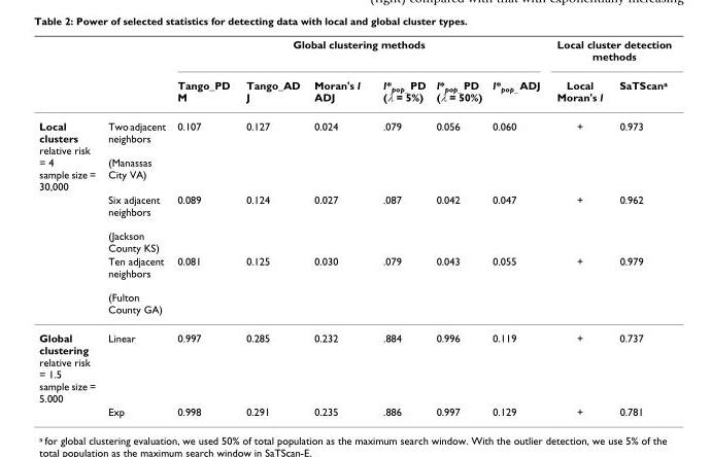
<table><thead><tr><td rowspan="2"></td><td rowspan="2"></td><td colspan="6">Global clustering methods</td><td colspan="2">Local cluster detection methods</td></tr><tr><td>Tango_PD M</td><td>Tango_AD J</td><td>Moran&#x27;s I ADJ</td><td>I*pop_ PD (λ = 5%)</td><td>I*pop_ PD (λ = 50%)</td><td>I*pop_ ADJ</td><td>Local Moran&#x27;s I</td><td>SaTScan<sup>a</sup></td></tr></thead><tbody><tr><td rowspan="3">Local clusters relative risk = 4 sample size = 30,000</td><td>Two adjacent neighbors (Manassas City VA)</td><td>0.107</td><td>0.127</td><td>0.024</td><td>.079</td><td>0.056</td><td>0.060</td><td>+</td><td>0.973</td></tr><tr><td>Six adjacent neighbors (Jackson County KS)</td><td>0.089</td><td>0.124</td><td>0.027</td><td>.087</td><td>0.042</td><td>0.047</td><td>+</td><td>0.962</td></tr><tr><td>Ten adjacent neighbors (Fulton County GA)</td><td>0.081</td><td>0.125</td><td>0.030</td><td>.079</td><td>0.043</td><td>0.055</td><td>+</td><td>0.979</td></tr><tr><td rowspan="2">Global clustering relative risk = 1.5 sample size = 5.000</td><td>Linear</td><td>0.997</td><td>0.285</td><td>0.232</td><td>.884</td><td>0.996</td><td>0.119</td><td>+</td><td>0.737</td></tr><tr><td>Exp</td><td>0.998</td><td>0.291</td><td>0.235</td><td>.886</td><td>0.997</td><td>0.129</td><td>+</td><td>0.781</td></tr></tbody></table>